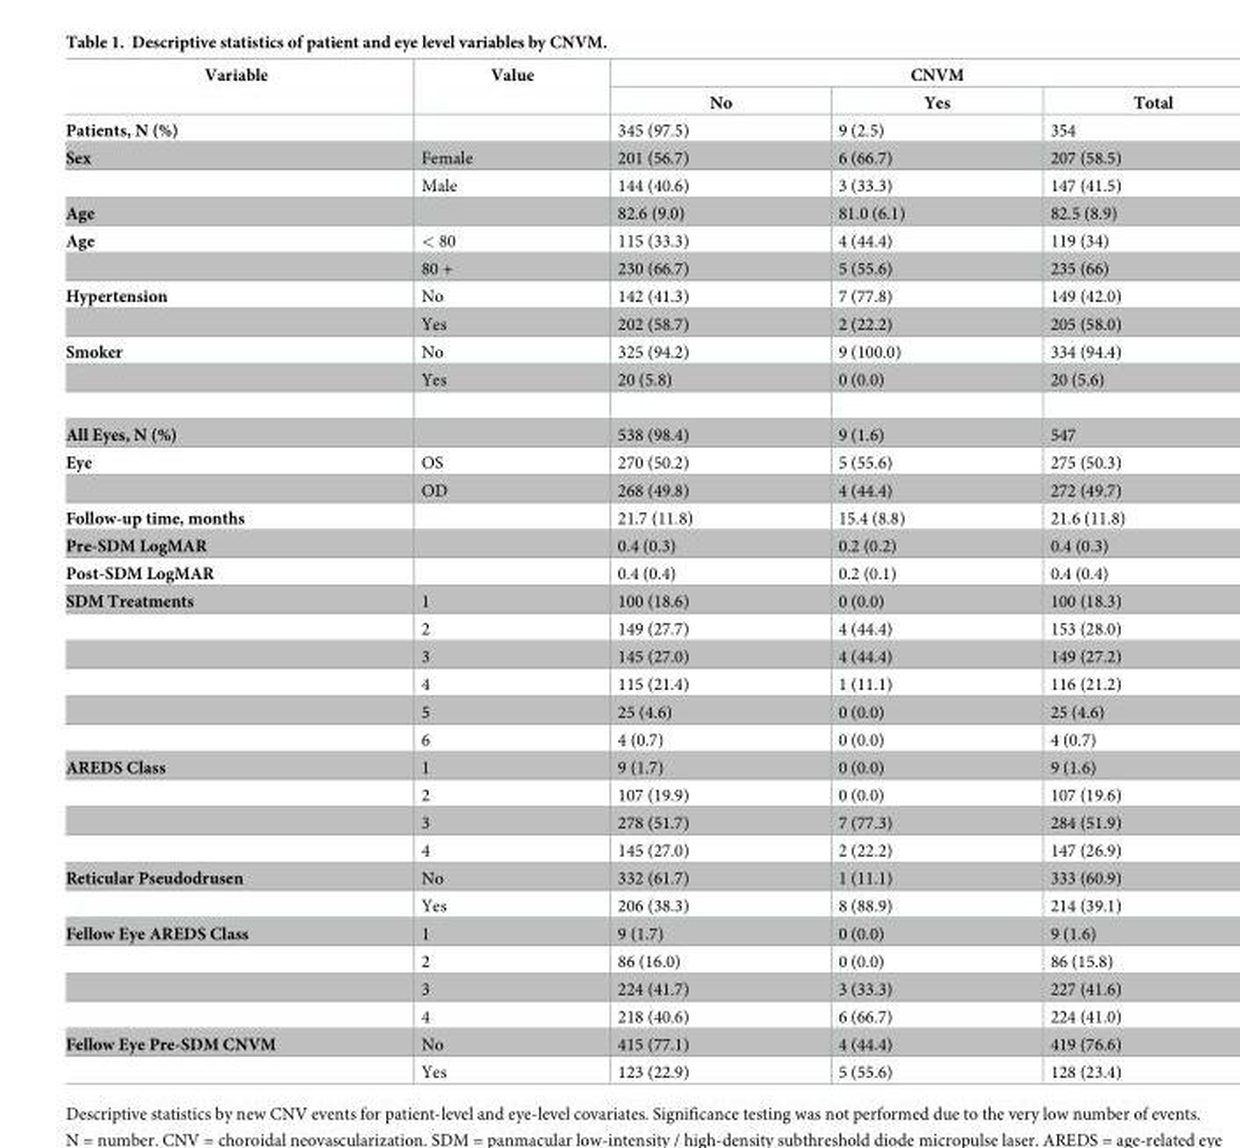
<table><thead><tr><td rowspan="2">Variable</td><td rowspan="2">Value</td><td colspan="3">CNVM</td></tr><tr><td>No</td><td>Yes</td><td>Total</td></tr></thead><tbody><tr><td>Patients, N (%)</td><td></td><td>345 (97.5)</td><td>9 (2.5)</td><td>354</td></tr><tr><td rowspan="2">Sex</td><td>Female</td><td>201 (56.7)</td><td>6 (66.7)</td><td>207 (58.5)</td></tr><tr><td>Male</td><td>144 (40.6)</td><td>3 (33.3)</td><td>147 (41.5)</td></tr><tr><td>Age</td><td></td><td>82.6 (9.0)</td><td>81.0 (6.1)</td><td>82.5 (8.9)</td></tr><tr><td rowspan="2">Age</td><td>&lt; 80</td><td>115 (33.3)</td><td>4 (44.4)</td><td>119 (34)</td></tr><tr><td>80 +</td><td>230 (66.7)</td><td>5 (55.6)</td><td>235 (66)</td></tr><tr><td rowspan="2">Hypertension</td><td>No</td><td>142 (41.3)</td><td>7 (77.8)</td><td>149 (42.0)</td></tr><tr><td>Yes</td><td>202 (58.7)</td><td>2 (22.2)</td><td>205 (58.0)</td></tr><tr><td rowspan="2">Smoker</td><td>No</td><td>325 (94.2)</td><td>9 (100.0)</td><td>334 (94.4)</td></tr><tr><td>Yes</td><td>20 (5.8)</td><td>0 (0.0)</td><td>20 (5.6)</td></tr><tr><td>All Eyes, N (%)</td><td></td><td>538 (98.4)</td><td>9 (1.6)</td><td>547</td></tr><tr><td rowspan="2">Eye</td><td>OS</td><td>270 (50.2)</td><td>5 (55.6)</td><td>275 (50.3)</td></tr><tr><td>OD</td><td>268 (49.8)</td><td>4 (44.4)</td><td>272 (49.7)</td></tr><tr><td>Follow-up time, months</td><td></td><td>21.7 (11.8)</td><td>15.4 (8.8)</td><td>21.6 (11.8)</td></tr><tr><td>Pre-SDM LogMAR</td><td></td><td>0.4 (0.3)</td><td>0.2 (0.2)</td><td>0.4 (0.3)</td></tr><tr><td>Post-SDM LogMAR</td><td></td><td>0.4 (0.4)</td><td>0.2 (0.1)</td><td>0.4 (0.4)</td></tr><tr><td rowspan="6">SDM Treatments</td><td>1</td><td>100 (18.6)</td><td>0 (0.0)</td><td>100 (18.3)</td></tr><tr><td>2</td><td>149 (27.7)</td><td>4 (44.4)</td><td>153 (28.0)</td></tr><tr><td>3</td><td>145 (27.0)</td><td>4 (44.4)</td><td>149 (27.2)</td></tr><tr><td>4</td><td>115 (21.4)</td><td>1 (11.1)</td><td>116 (21.2)</td></tr><tr><td>5</td><td>25 (4.6)</td><td>0 (0.0)</td><td>25 (4.6)</td></tr><tr><td>6</td><td>4 (0.7)</td><td>0 (0.0)</td><td>4 (0.7)</td></tr><tr><td rowspan="4">AREDS Class</td><td>1</td><td>9 (1.7)</td><td>0 (0.0)</td><td>9 (1.6)</td></tr><tr><td>2</td><td>107 (19.9)</td><td>0 (0.0)</td><td>107 (19.6)</td></tr><tr><td>3</td><td>278 (51.7)</td><td>7 (77.3)</td><td>284 (51.9)</td></tr><tr><td>4</td><td>145 (27.0)</td><td>2 (22.2)</td><td>147 (26.9)</td></tr><tr><td rowspan="2">Reticular Pseudodrusen</td><td>No</td><td>332 (61.7)</td><td>1 (11.1)</td><td>333 (60.9)</td></tr><tr><td>Yes</td><td>206 (38.3)</td><td>8 (88.9)</td><td>214 (39.1)</td></tr><tr><td rowspan="4">Fellow Eye AREDS Class</td><td>1</td><td>9 (1.7)</td><td>0 (0.0)</td><td>9 (1.6)</td></tr><tr><td>2</td><td>86 (16.0)</td><td>0 (0.0)</td><td>86 (15.8)</td></tr><tr><td>3</td><td>224 (41.7)</td><td>3 (33.3)</td><td>227 (41.6)</td></tr><tr><td>4</td><td>218 (40.6)</td><td>6 (66.7)</td><td>224 (41.0)</td></tr><tr><td rowspan="2">Fellow Eye Pre-SDM CNVM</td><td>No</td><td>415 (77.1)</td><td>4 (44.4)</td><td>419 (76.6)</td></tr><tr><td>Yes</td><td>123 (22.9)</td><td>5 (55.6)</td><td>128 (23.4)</td></tr></tbody></table>